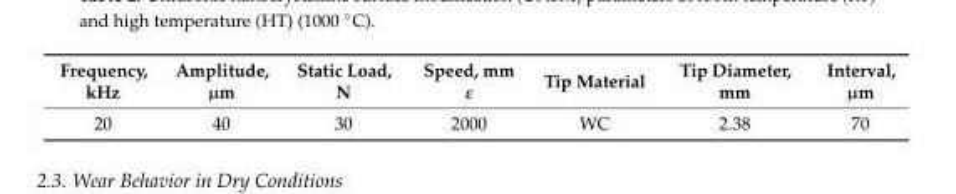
<table><thead><tr><td>Frequency, kHz</td><td>Amplitude, µm</td><td>Static Load, N</td><td>Speed, mm ε</td><td>Tip Material</td><td>Tip Diameter, mm</td><td>Interval, µm</td></tr></thead><tbody><tr><td>20</td><td>40</td><td>30</td><td>2000</td><td>WC</td><td>2.38</td><td>70</td></tr></tbody></table>